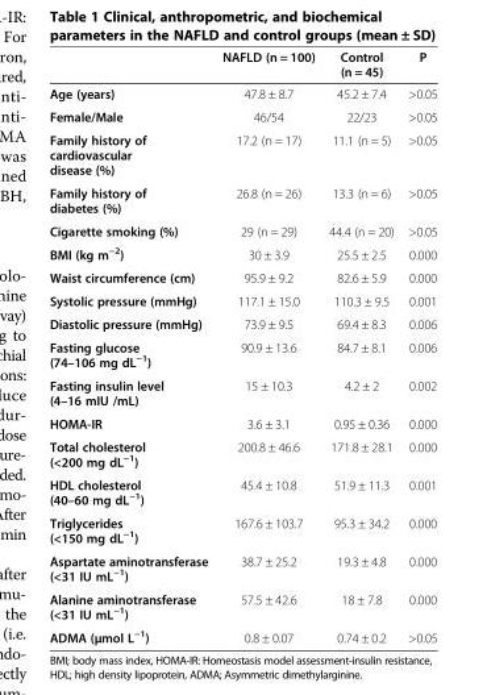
<table><thead><tr><td></td><td>NAFLD (n = 100)</td><td>Control (n = 45)</td><td>P</td></tr></thead><tbody><tr><td>Age (years)</td><td>47.8 ± 8.7</td><td>45.2 ± 7.4</td><td>&gt;0.05</td></tr><tr><td>Female/Male</td><td>46/54</td><td>22/23</td><td>&gt;0.05</td></tr><tr><td>Family history of cardiovascular disease (%)</td><td>17.2 (n = 17)</td><td>11.1 (n = 5)</td><td>&gt;0.05</td></tr><tr><td>Family history of diabetes (%)</td><td>26.8 (n = 26)</td><td>13.3 (n = 6)</td><td>&gt;0.05</td></tr><tr><td>Cigarette smoking (%)</td><td>29 (n = 29)</td><td>44.4 (n = 20)</td><td>&gt;0.05</td></tr><tr><td>BMI (kg m<sup>−2</sup>)</td><td>30 ± 3.9</td><td>25.5 ± 2.5</td><td>0.000</td></tr><tr><td>Waist circumference (cm)</td><td>95.9 ± 9.2</td><td>82.6 ± 5.9</td><td>0.000</td></tr><tr><td>Systolic pressure (mmHg)</td><td>117.1 ± 15.0</td><td>110.3 ± 9.5</td><td>0.001</td></tr><tr><td>Diastolic pressure (mmHg)</td><td>73.9 ± 9.5</td><td>69.4 ± 8.3</td><td>0.006</td></tr><tr><td>Fasting glucose (74–106 mg dL<sup>−1</sup>)</td><td>90.9 ± 13.6</td><td>84.7 ± 8.1</td><td>0.006</td></tr><tr><td>Fasting insulin level (4–16 mIU /mL)</td><td>15 ± 10.3</td><td>4.2 ± 2</td><td>0.002</td></tr><tr><td>HOMA-IR</td><td>3.6 ± 3.1</td><td>0.95 ± 0.36</td><td>0.000</td></tr><tr><td>Total cholesterol (&lt;200 mg dL<sup>−1</sup>)</td><td>200.8 ± 46.6</td><td>171.8 ± 28.1</td><td>0.000</td></tr><tr><td>HDL cholesterol (40–60 mg dL<sup>−1</sup>)</td><td>45.4 ± 10.8</td><td>51.9 ± 11.3</td><td>0.001</td></tr><tr><td>Triglycerides (&lt;150 mg dL<sup>−1</sup>)</td><td>167.6 ± 103.7</td><td>95.3 ± 34.2</td><td>0.000</td></tr><tr><td>Aspartate aminotransferase (&lt;31 IU mL<sup>−1</sup>)</td><td>38.7 ± 25.2</td><td>19.3 ± 4.8</td><td>0.000</td></tr><tr><td>Alanine aminotransferase (&lt;31 IU mL<sup>−1</sup>)</td><td>57.5 ± 42.6</td><td>18 ± 7.8</td><td>0.000</td></tr><tr><td>ADMA (μmol L<sup>−1</sup>)</td><td>0.8 ± 0.07</td><td>0.74 ± 0.2</td><td>&gt;0.05</td></tr></tbody></table>